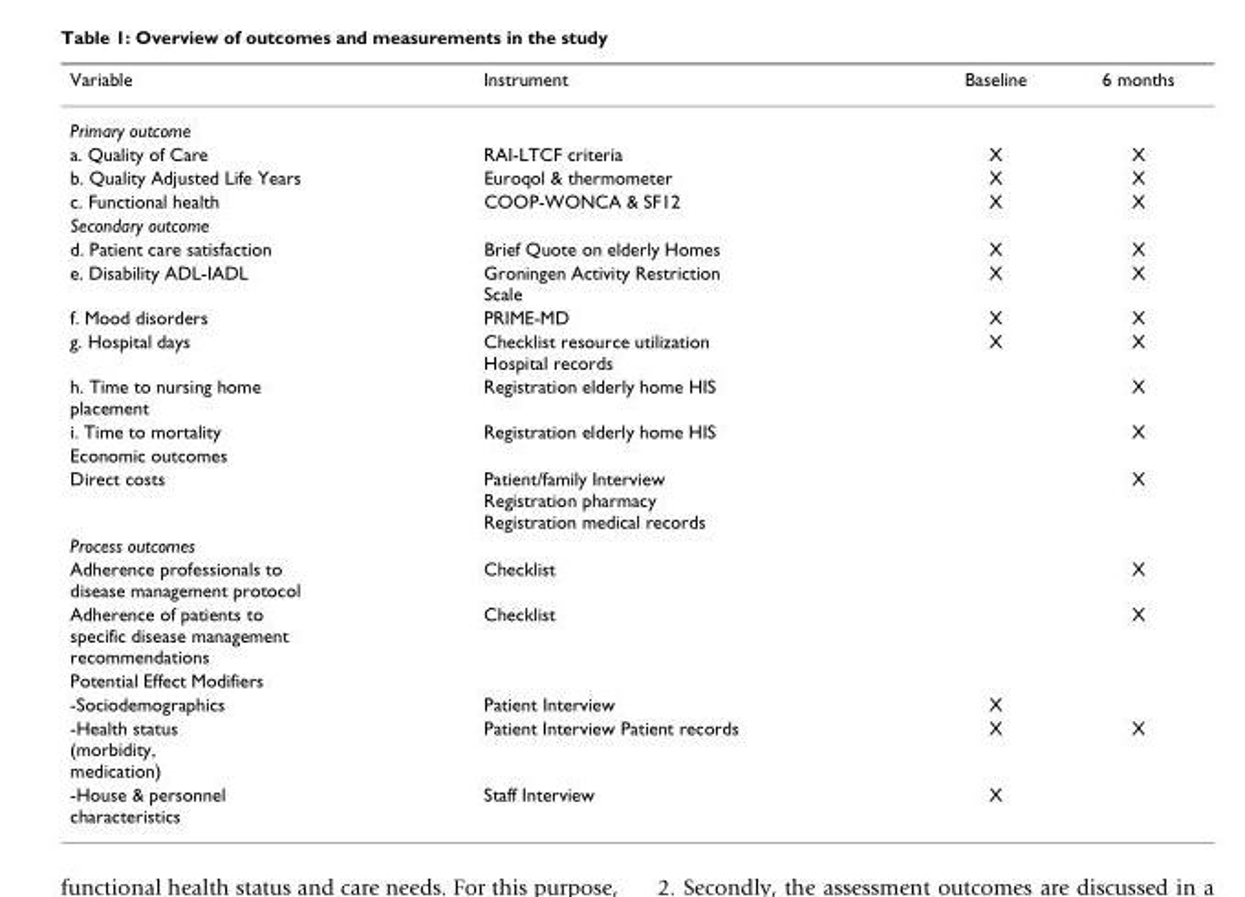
<table><thead><tr><td>Variable</td><td>Instrument</td><td>Baseline</td><td>6 months</td></tr></thead><tbody><tr><td colspan="4">Primary outcome</td></tr><tr><td>a. Quality of Care</td><td>RAI-LTCF criteria</td><td>X</td><td>X</td></tr><tr><td>b. Quality Adjusted Life Years</td><td>Euroqol &amp; thermometer</td><td>X</td><td>X</td></tr><tr><td>c. Functional health</td><td>COOP-WONCA &amp; SF12</td><td>X</td><td>X</td></tr><tr><td colspan="4">Secondary outcome</td></tr><tr><td>d. Patient care satisfaction</td><td>Brief Quote on elderly Homes</td><td>X</td><td>X</td></tr><tr><td>e. Disability ADL-IADL</td><td>Groningen Activity Restriction Scale</td><td>X</td><td>X</td></tr><tr><td>f. Mood disorders</td><td>PRIME-MD</td><td>X</td><td>X</td></tr><tr><td>g. Hospital days</td><td>Checklist resource utilization Hospital records</td><td>X</td><td>X</td></tr><tr><td>h. Time to nursing home placement</td><td>Registration elderly home HIS</td><td></td><td>X</td></tr><tr><td>i. Time to mortality</td><td>Registration elderly home HIS</td><td></td><td>X</td></tr><tr><td colspan="4">Economic outcomes</td></tr><tr><td>Direct costs</td><td>Patient/family Interview Registration pharmacy Registration medical records</td><td></td><td>X</td></tr><tr><td colspan="4">Process outcomes</td></tr><tr><td>Adherence professionals to disease management protocol</td><td>Checklist</td><td></td><td>X</td></tr><tr><td>Adherence of patients to specific disease management recommendations</td><td>Checklist</td><td></td><td>X</td></tr><tr><td colspan="4">Potential Effect Modifiers</td></tr><tr><td>-Sociodemographics</td><td>Patient Interview</td><td>X</td><td></td></tr><tr><td>-Health status (morbidity, medication)</td><td>Patient Interview Patient records</td><td>X</td><td>X</td></tr><tr><td>-House &amp; personnel characteristics</td><td>Staff Interview</td><td>X</td><td></td></tr></tbody></table>